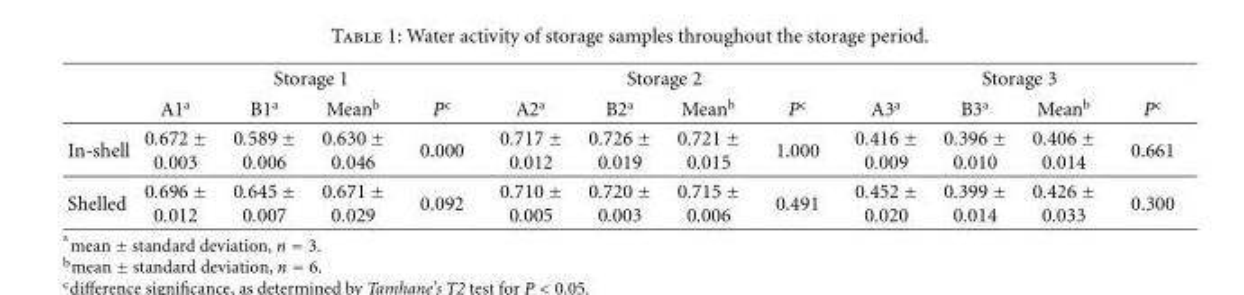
<table><thead><tr><td rowspan="2"></td><td colspan="4">Storage 1</td><td colspan="4">Storage 2</td><td colspan="4">Storage 3</td></tr><tr><td>A1<sup>a</sup></td><td>B1<sup>a</sup></td><td>Mean<sup>b</sup></td><td>P<sup>c</sup></td><td>A2<sup>a</sup></td><td>B2<sup>a</sup></td><td>Mean<sup>b</sup></td><td>P<sup>c</sup></td><td>A3<sup>a</sup></td><td>B3<sup>a</sup></td><td>Mean<sup>b</sup></td><td>P<sup>c</sup></td></tr></thead><tbody><tr><td>In-shell</td><td>0.672 ± 0.003</td><td>0.589 ± 0.006</td><td>0.630 ± 0.046</td><td>0.000</td><td>0.717 ± 0.012</td><td>0.726 ± 0.019</td><td>0.721 ± 0.015</td><td>1.000</td><td>0.416 ± 0.009</td><td>0.396 ± 0.010</td><td>0.406 ± 0.014</td><td>0.661</td></tr><tr><td>Shelled</td><td>0.696 ± 0.012</td><td>0.645 ± 0.007</td><td>0.671 ± 0.029</td><td>0.092</td><td>0.710 ± 0.005</td><td>0.720 ± 0.003</td><td>0.715 ± 0.006</td><td>0.491</td><td>0.452 ± 0.020</td><td>0.399 ± 0.014</td><td>0.426 ± 0.033</td><td>0.300</td></tr></tbody></table>